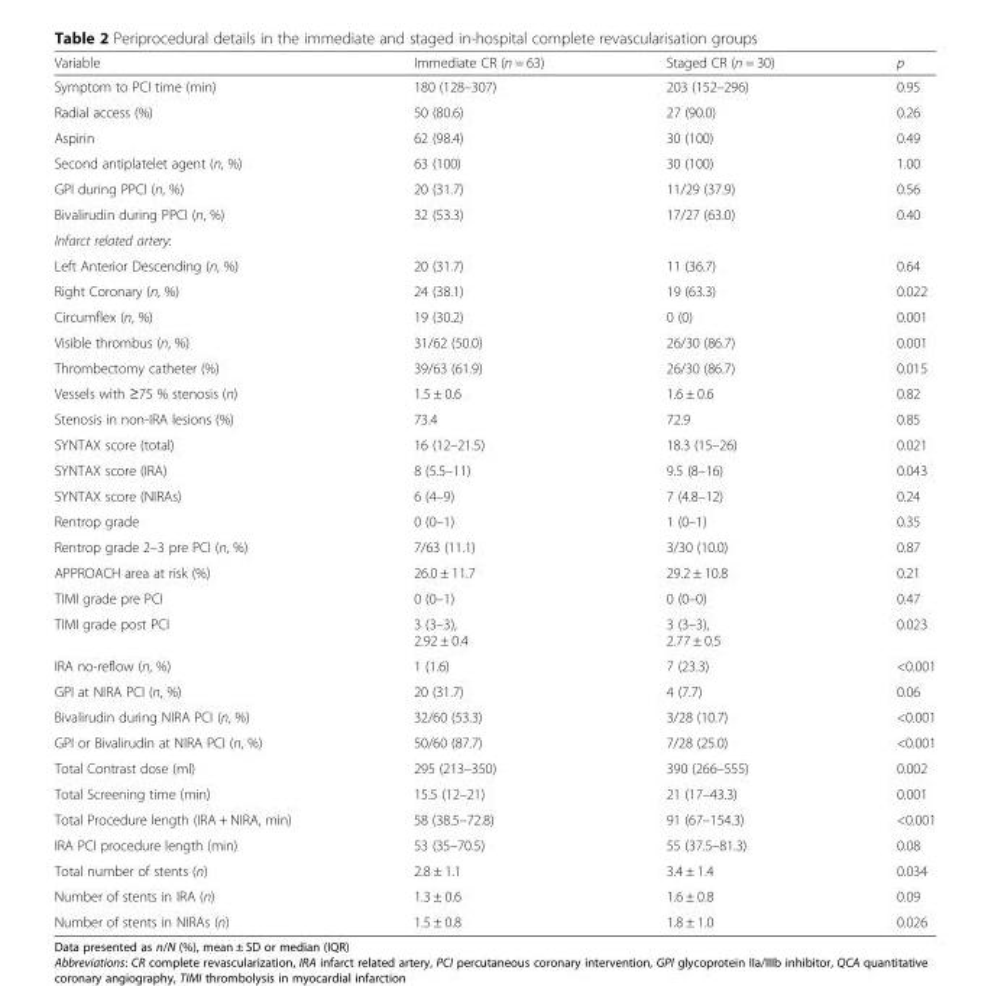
<table><thead><tr><td>Variable</td><td>Immediate CR (n = 63)</td><td>Staged CR (n = 30)</td><td>p</td></tr></thead><tbody><tr><td>Symptom to PCI time (min)</td><td>180 (128–307)</td><td>203 (152–296)</td><td>0.95</td></tr><tr><td>Radial access (%)</td><td>50 (80.6)</td><td>27 (90.0)</td><td>0.26</td></tr><tr><td>Aspirin</td><td>62 (98.4)</td><td>30 (100)</td><td>0.49</td></tr><tr><td>Second antiplatelet agent (n, %)</td><td>63 (100)</td><td>30 (100)</td><td>1.00</td></tr><tr><td>GPI during PPCI (n, %)</td><td>20 (31.7)</td><td>11/29 (37.9)</td><td>0.56</td></tr><tr><td>Bivalirudin during PPCI (n, %)</td><td>32 (53.3)</td><td>17/27 (63.0)</td><td>0.40</td></tr><tr><td colspan="4">Infarct related artery:</td></tr><tr><td>Left Anterior Descending (n, %)</td><td>20 (31.7)</td><td>11 (36.7)</td><td>0.64</td></tr><tr><td>Right Coronary (n, %)</td><td>24 (38.1)</td><td>19 (63.3)</td><td>0.022</td></tr><tr><td>Circumflex (n, %)</td><td>19 (30.2)</td><td>0 (0)</td><td>0.001</td></tr><tr><td>Visible thrombus (n, %)</td><td>31/62 (50.0)</td><td>26/30 (86.7)</td><td>0.001</td></tr><tr><td>Thrombectomy catheter (%)</td><td>39/63 (61.9)</td><td>26/30 (86.7)</td><td>0.015</td></tr><tr><td>Vessels with ≥75 % stenosis (n)</td><td>1.5 ± 0.6</td><td>1.6 ± 0.6</td><td>0.82</td></tr><tr><td>Stenosis in non-IRA lesions (%)</td><td>73.4</td><td>72.9</td><td>0.85</td></tr><tr><td>SYNTAX score (total)</td><td>16 (12–21.5)</td><td>18.3 (15–26)</td><td>0.021</td></tr><tr><td>SYNTAX score (IRA)</td><td>8 (5.5–11)</td><td>9.5 (8–16)</td><td>0.043</td></tr><tr><td>SYNTAX score (NIRAs)</td><td>6 (4–9)</td><td>7 (4.8–12)</td><td>0.24</td></tr><tr><td>Rentrop grade</td><td>0 (0–1)</td><td>1 (0–1)</td><td>0.35</td></tr><tr><td>Rentrop grade 2–3 pre PCI (n, %)</td><td>7/63 (11.1)</td><td>3/30 (10.0)</td><td>0.87</td></tr><tr><td>APPROACH area at risk (%)</td><td>26.0 ± 11.7</td><td>29.2 ± 10.8</td><td>0.21</td></tr><tr><td>TIMI grade pre PCI</td><td>0 (0–1)</td><td>0 (0–0)</td><td>0.47</td></tr><tr><td>TIMI grade post PCI</td><td>3 (3–3), 2.92 ± 0.4</td><td>3 (3–3), 2.77 ± 0.5</td><td>0.023</td></tr><tr><td>IRA no-reflow (n, %)</td><td>1 (1.6)</td><td>7 (23.3)</td><td>&lt;0.001</td></tr><tr><td>GPI at NIRA PCI (n, %)</td><td>20 (31.7)</td><td>4 (7.7)</td><td>0.06</td></tr><tr><td>Bivalirudin during NIRA PCI (n, %)</td><td>32/60 (53.3)</td><td>3/28 (10.7)</td><td>&lt;0.001</td></tr><tr><td>GPI or Bivalirudin at NIRA PCI (n, %)</td><td>50/60 (87.7)</td><td>7/28 (25.0)</td><td>&lt;0.001</td></tr><tr><td>Total Contrast dose (ml)</td><td>295 (213–350)</td><td>390 (266–555)</td><td>0.002</td></tr><tr><td>Total Screening time (min)</td><td>15.5 (12–21)</td><td>21 (17–43.3)</td><td>0.001</td></tr><tr><td>Total Procedure length (IRA + NIRA, min)</td><td>58 (38.5–72.8)</td><td>91 (67–154.3)</td><td>&lt;0.001</td></tr><tr><td>IRA PCI procedure length (min)</td><td>53 (35–70.5)</td><td>55 (37.5–81.3)</td><td>0.08</td></tr><tr><td>Total number of stents (n)</td><td>2.8 ± 1.1</td><td>3.4 ± 1.4</td><td>0.034</td></tr><tr><td>Number of stents in IRA (n)</td><td>1.3 ± 0.6</td><td>1.6 ± 0.8</td><td>0.09</td></tr><tr><td>Number of stents in NIRAs (n)</td><td>1.5 ± 0.8</td><td>1.8 ± 1.0</td><td>0.026</td></tr></tbody></table>